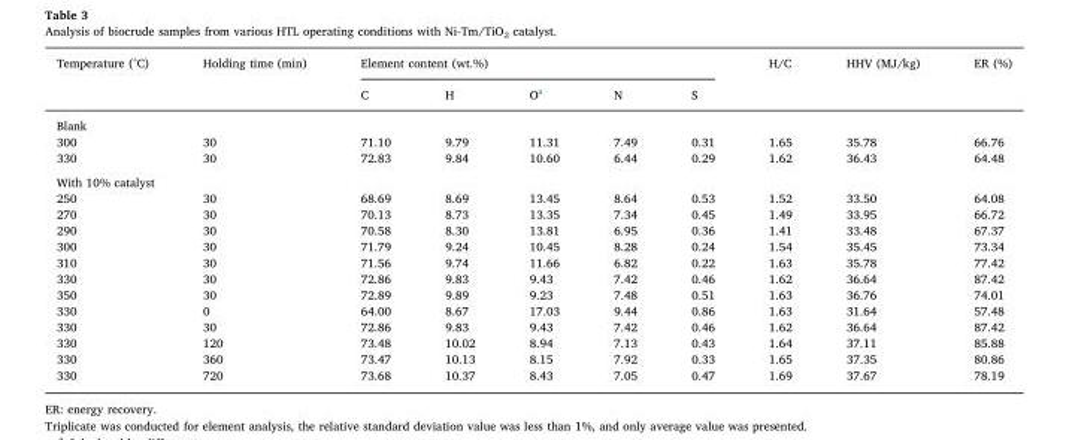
<table><thead><tr><td rowspan="2">Temperature (°C)</td><td rowspan="2">Holding time (min)</td><td colspan="5">Element content (wt.%)</td><td rowspan="2">H/C</td><td rowspan="2">HHV (MJ/kg)</td><td rowspan="2">ER (%)</td></tr><tr><td>C</td><td>H</td><td>O<sup>a</sup></td><td>N</td><td>S</td></tr></thead><tbody><tr><td colspan="10">Blank</td></tr><tr><td>300</td><td>30</td><td>71.10</td><td>9.79</td><td>11.31</td><td>7.49</td><td>0.31</td><td>1.65</td><td>35.78</td><td>66.76</td></tr><tr><td>330</td><td>30</td><td>72.83</td><td>9.84</td><td>10.60</td><td>6.44</td><td>0.29</td><td>1.62</td><td>36.43</td><td>64.48</td></tr><tr><td colspan="10">With 10% catalyst</td></tr><tr><td>250</td><td>30</td><td>68.69</td><td>8.69</td><td>13.45</td><td>8.64</td><td>0.53</td><td>1.52</td><td>33.50</td><td>64.08</td></tr><tr><td>270</td><td>30</td><td>70.13</td><td>8.73</td><td>13.35</td><td>7.34</td><td>0.45</td><td>1.49</td><td>33.95</td><td>66.72</td></tr><tr><td>290</td><td>30</td><td>70.58</td><td>8.30</td><td>13.81</td><td>6.95</td><td>0.36</td><td>1.41</td><td>33.48</td><td>67.37</td></tr><tr><td>300</td><td>30</td><td>71.79</td><td>9.24</td><td>10.45</td><td>8.28</td><td>0.24</td><td>1.54</td><td>35.45</td><td>73.34</td></tr><tr><td>310</td><td>30</td><td>71.56</td><td>9.74</td><td>11.66</td><td>6.82</td><td>0.22</td><td>1.63</td><td>35.78</td><td>77.42</td></tr><tr><td>330</td><td>30</td><td>72.86</td><td>9.83</td><td>9.43</td><td>7.42</td><td>0.46</td><td>1.62</td><td>36.64</td><td>87.42</td></tr><tr><td>350</td><td>30</td><td>72.89</td><td>9.89</td><td>9.23</td><td>7.48</td><td>0.51</td><td>1.63</td><td>36.76</td><td>74.01</td></tr><tr><td>330</td><td>0</td><td>64.00</td><td>8.67</td><td>17.03</td><td>9.44</td><td>0.86</td><td>1.63</td><td>31.64</td><td>57.48</td></tr><tr><td>330</td><td>30</td><td>72.86</td><td>9.83</td><td>9.43</td><td>7.42</td><td>0.46</td><td>1.62</td><td>36.64</td><td>87.42</td></tr><tr><td>330</td><td>120</td><td>73.48</td><td>10.02</td><td>8.94</td><td>7.13</td><td>0.43</td><td>1.64</td><td>37.11</td><td>85.88</td></tr><tr><td>330</td><td>360</td><td>73.47</td><td>10.13</td><td>8.15</td><td>7.92</td><td>0.33</td><td>1.65</td><td>37.35</td><td>80.86</td></tr><tr><td>330</td><td>720</td><td>73.68</td><td>10.37</td><td>8.43</td><td>7.05</td><td>0.47</td><td>1.69</td><td>37.67</td><td>78.19</td></tr></tbody></table>